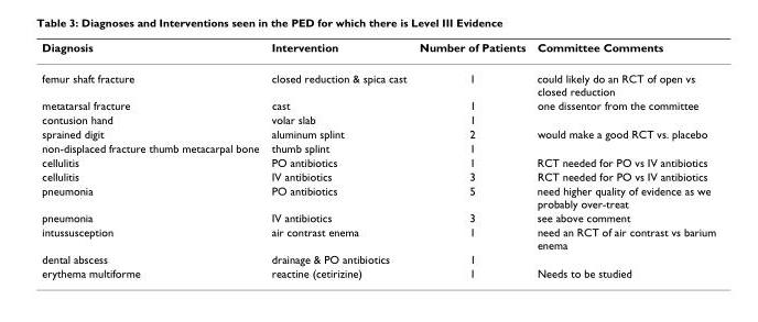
<table><thead><tr><td>Diagnosis</td><td>Intervention</td><td>Number of Patients</td><td>Committee Comments</td></tr></thead><tbody><tr><td>femur shaft fracture</td><td>closed reduction &amp; spica cast</td><td>1</td><td>could likely do an RCT of open vs closed reduction</td></tr><tr><td>metatarsal fracture</td><td>cast</td><td>1</td><td>one dissentor from the committee</td></tr><tr><td>contusion hand</td><td>volar slab</td><td>1</td><td></td></tr><tr><td>sprained digit</td><td>aluminum splint</td><td>2</td><td>would make a good RCT vs. placebo</td></tr><tr><td>non-displaced fracture thumb metacarpal bone</td><td>thumb splint</td><td>1</td><td></td></tr><tr><td>cellulitis</td><td>PO antibiotics</td><td>1</td><td>RCT needed for PO vs IV antibiotics</td></tr><tr><td>cellulitis</td><td>IV antibiotics</td><td>3</td><td>RCT needed for PO vs IV antibiotics</td></tr><tr><td>pneumonia</td><td>PO antibiotics</td><td>5</td><td>need higher quality of evidence as we probably over-treat</td></tr><tr><td>pneumonia</td><td>IV antibiotics</td><td>3</td><td>see above comment</td></tr><tr><td>intussusception</td><td>air contrast enema</td><td>1</td><td>need an RCT of air contrast vs barium enema</td></tr><tr><td>dental abscess</td><td>drainage &amp; PO antibiotics</td><td>1</td><td></td></tr><tr><td>erythema multiforme</td><td>reactine (cetirizine)</td><td>1</td><td>Needs to be studied</td></tr></tbody></table>